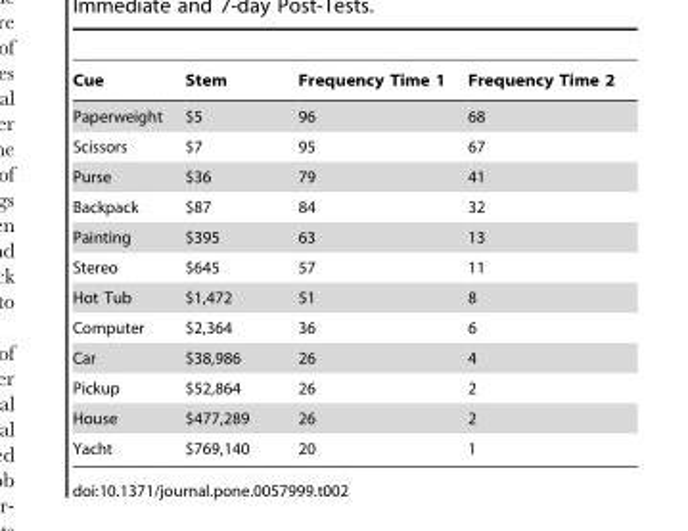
<table><thead><tr><td>Cue</td><td>Stem</td><td>Frequency Time 1</td><td>Frequency Time 2</td></tr></thead><tbody><tr><td>Paperweight</td><td>$5</td><td>96</td><td>68</td></tr><tr><td>Scissors</td><td>$7</td><td>95</td><td>67</td></tr><tr><td>Purse</td><td>$36</td><td>79</td><td>41</td></tr><tr><td>Backpack</td><td>$87</td><td>84</td><td>32</td></tr><tr><td>Painting</td><td>$395</td><td>63</td><td>13</td></tr><tr><td>Stereo</td><td>$645</td><td>57</td><td>11</td></tr><tr><td>Hot Tub</td><td>$1,472</td><td>51</td><td>8</td></tr><tr><td>Computer</td><td>$2,364</td><td>36</td><td>6</td></tr><tr><td>Car</td><td>$38,986</td><td>26</td><td>4</td></tr><tr><td>Pickup</td><td>$52,864</td><td>26</td><td>2</td></tr><tr><td>House</td><td>$477,289</td><td>26</td><td>2</td></tr><tr><td>Yacht</td><td>$769,140</td><td>20</td><td>1</td></tr></tbody></table>